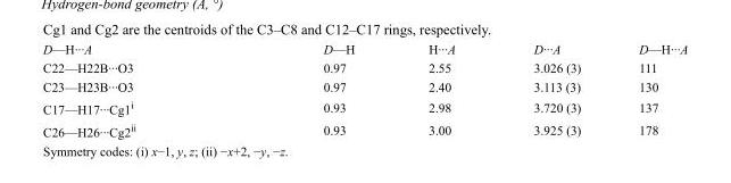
<table><tbody><tr><td>D—H···A</td><td>D—H</td><td>H···A</td><td>D···A</td><td>D—H···A</td></tr><tr><td>C22—H22B···O3</td><td>0.97</td><td>2.55</td><td>3.026 (3)</td><td>111</td></tr><tr><td>C23—H23B···O3</td><td>0.97</td><td>2.40</td><td>3.113 (3)</td><td>130</td></tr><tr><td>C17—H17···Cg1<sup>i</sup></td><td>0.93</td><td>2.98</td><td>3.720 (3)</td><td>137</td></tr><tr><td>C26—H26···Cg2<sup>ii</sup></td><td>0.93</td><td>3.00</td><td>3.925 (3)</td><td>178</td></tr></tbody></table>